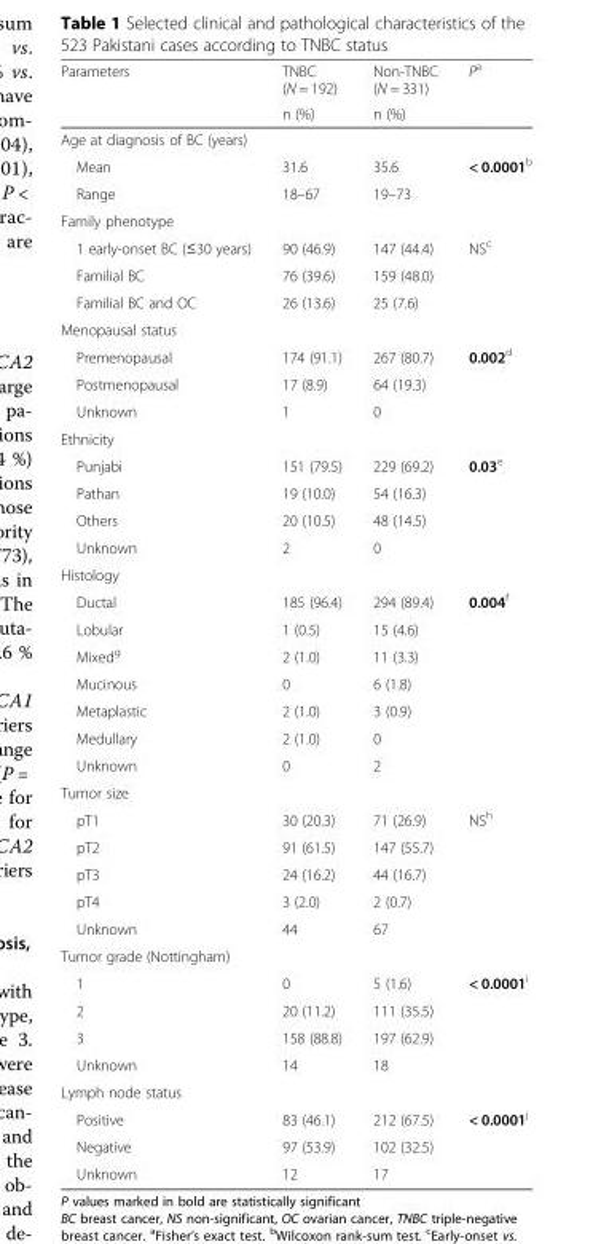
<table><thead><tr><td rowspan="2">Parameters</td><td rowspan="2">TNBC (N = 192) n (%)</td><td rowspan="2">Non-TNBC (N = 331) n (%)</td><td rowspan="2">P<sup>a</sup></td></tr><tr></tr></thead><tbody><tr><td colspan="4">Age at diagnosis of BC (years)</td></tr><tr><td>Mean</td><td>31.6</td><td>35.6</td><td>&lt; 0.0001<sup>b</sup></td></tr><tr><td>Range</td><td>18–67</td><td>19–73</td><td></td></tr><tr><td colspan="4">Family phenotype</td></tr><tr><td>1 early-onset BC (≤30 years)</td><td>90 (46.9)</td><td>147 (44.4)</td><td>NS<sup>c</sup></td></tr><tr><td>Familial BC</td><td>76 (39.6)</td><td>159 (48.0)</td><td></td></tr><tr><td>Familial BC and OC</td><td>26 (13.6)</td><td>25 (7.6)</td><td></td></tr><tr><td colspan="4">Menopausal status</td></tr><tr><td>Premenopausal</td><td>174 (91.1)</td><td>267 (80.7)</td><td>0.002<sup>d</sup></td></tr><tr><td>Postmenopausal</td><td>17 (8.9)</td><td>64 (19.3)</td><td></td></tr><tr><td>Unknown</td><td>1</td><td>0</td><td></td></tr><tr><td colspan="4">Ethnicity</td></tr><tr><td>Punjabi</td><td>151 (79.5)</td><td>229 (69.2)</td><td>0.03<sup>e</sup></td></tr><tr><td>Pathan</td><td>19 (10.0)</td><td>54 (16.3)</td><td></td></tr><tr><td>Others</td><td>20 (10.5)</td><td>48 (14.5)</td><td></td></tr><tr><td>Unknown</td><td>2</td><td>0</td><td></td></tr><tr><td colspan="4">Histology</td></tr><tr><td>Ductal</td><td>185 (96.4)</td><td>294 (89.4)</td><td>0.004<sup>f</sup></td></tr><tr><td>Lobular</td><td>1 (0.5)</td><td>15 (4.6)</td><td></td></tr><tr><td>Mixed<sup>g</sup></td><td>2 (1.0)</td><td>11 (3.3)</td><td></td></tr><tr><td>Mucinous</td><td>0</td><td>6 (1.8)</td><td></td></tr><tr><td>Metaplastic</td><td>2 (1.0)</td><td>3 (0.9)</td><td></td></tr><tr><td>Medullary</td><td>2 (1.0)</td><td>0</td><td></td></tr><tr><td>Unknown</td><td>0</td><td>2</td><td></td></tr><tr><td colspan="4">Tumor size</td></tr><tr><td>pT1</td><td>30 (20.3)</td><td>71 (26.9)</td><td>NS<sup>h</sup></td></tr><tr><td>pT2</td><td>91 (61.5)</td><td>147 (55.7)</td><td></td></tr><tr><td>pT3</td><td>24 (16.2)</td><td>44 (16.7)</td><td></td></tr><tr><td>pT4</td><td>3 (2.0)</td><td>2 (0.7)</td><td></td></tr><tr><td>Unknown</td><td>44</td><td>67</td><td></td></tr><tr><td colspan="4">Tumor grade (Nottingham)</td></tr><tr><td>1</td><td>0</td><td>5 (1.6)</td><td>&lt; 0.0001<sup>i</sup></td></tr><tr><td>2</td><td>20 (11.2)</td><td>111 (35.5)</td><td></td></tr><tr><td>3</td><td>158 (88.8)</td><td>197 (62.9)</td><td></td></tr><tr><td>Unknown</td><td>14</td><td>18</td><td></td></tr><tr><td colspan="4">Lymph node status</td></tr><tr><td>Positive</td><td>83 (46.1)</td><td>212 (67.5)</td><td>&lt; 0.0001<sup>j</sup></td></tr><tr><td>Negative</td><td>97 (53.9)</td><td>102 (32.5)</td><td></td></tr><tr><td>Unknown</td><td>12</td><td>17</td><td></td></tr></tbody></table>